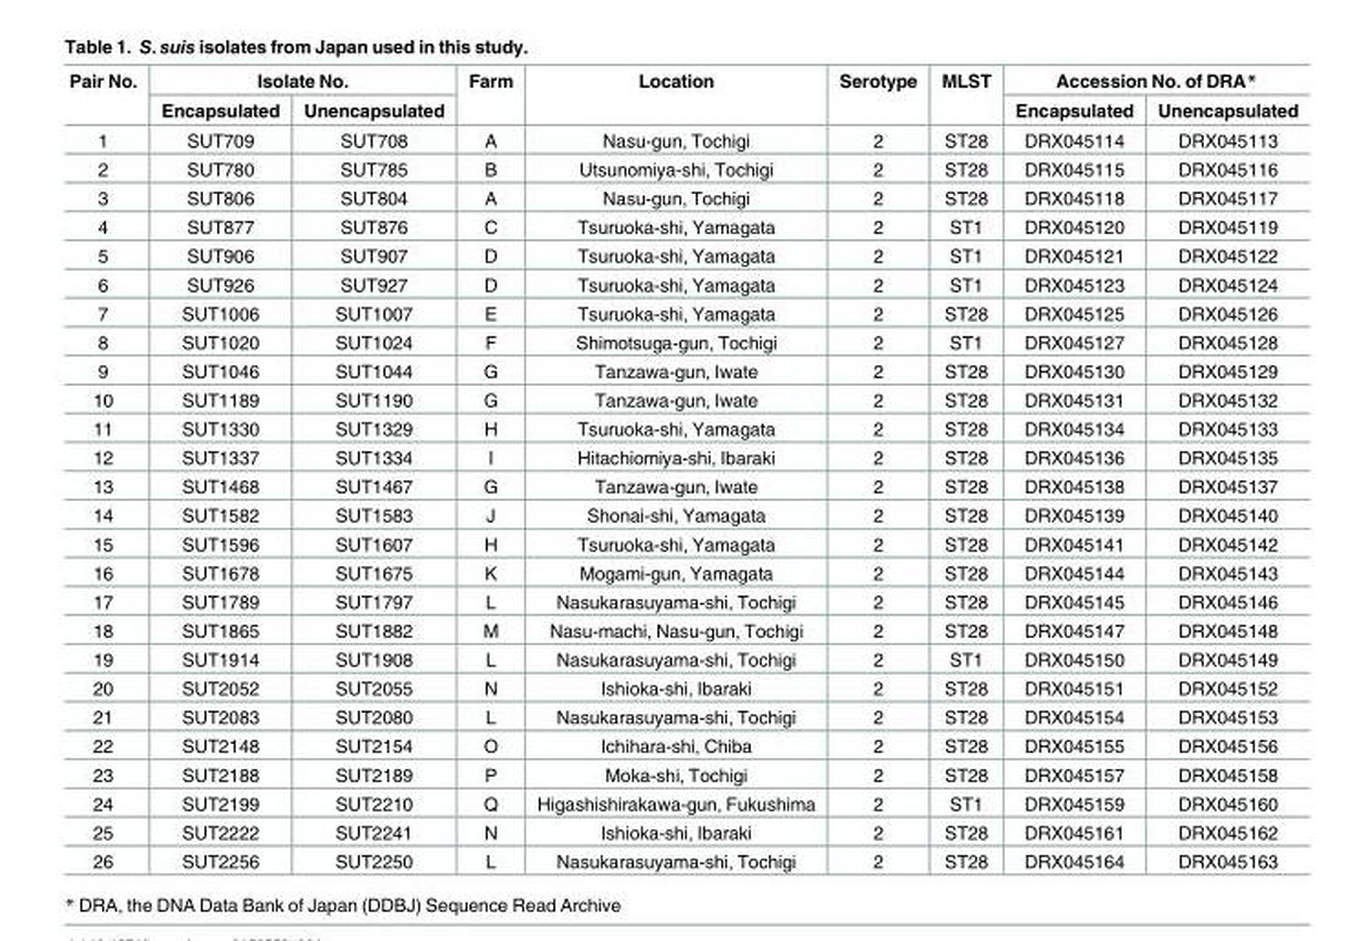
<table><thead><tr><td rowspan="2">Pair No.</td><td colspan="2">Isolate No.</td><td rowspan="2">Farm</td><td rowspan="2">Location</td><td rowspan="2">Serotype</td><td rowspan="2">MLST</td><td colspan="2">Accession No. of DRA*</td></tr><tr><td>Encapsulated</td><td>Unencapsulated</td><td>Encapsulated</td><td>Unencapsulated</td></tr></thead><tbody><tr><td>1</td><td>SUT709</td><td>SUT708</td><td>A</td><td>Nasu-gun, Tochigi</td><td>2</td><td>ST28</td><td>DRX045114</td><td>DRX045113</td></tr><tr><td>2</td><td>SUT780</td><td>SUT785</td><td>B</td><td>Utsunomiya-shi, Tochigi</td><td>2</td><td>ST28</td><td>DRX045115</td><td>DRX045116</td></tr><tr><td>3</td><td>SUT806</td><td>SUT804</td><td>A</td><td>Nasu-gun, Tochigi</td><td>2</td><td>ST28</td><td>DRX045118</td><td>DRX045117</td></tr><tr><td>4</td><td>SUT877</td><td>SUT876</td><td>C</td><td>Tsuruoka-shi, Yamagata</td><td>2</td><td>ST1</td><td>DRX045120</td><td>DRX045119</td></tr><tr><td>5</td><td>SUT906</td><td>SUT907</td><td>D</td><td>Tsuruoka-shi, Yamagata</td><td>2</td><td>ST1</td><td>DRX045121</td><td>DRX045122</td></tr><tr><td>6</td><td>SUT926</td><td>SUT927</td><td>D</td><td>Tsuruoka-shi, Yamagata</td><td>2</td><td>ST1</td><td>DRX045123</td><td>DRX045124</td></tr><tr><td>7</td><td>SUT1006</td><td>SUT1007</td><td>E</td><td>Tsuruoka-shi, Yamagata</td><td>2</td><td>ST28</td><td>DRX045125</td><td>DRX045126</td></tr><tr><td>8</td><td>SUT1020</td><td>SUT1024</td><td>F</td><td>Shimotsuga-gun, Tochigi</td><td>2</td><td>ST1</td><td>DRX045127</td><td>DRX045128</td></tr><tr><td>9</td><td>SUT1046</td><td>SUT1044</td><td>G</td><td>Tanzawa-gun, Iwate</td><td>2</td><td>ST28</td><td>DRX045130</td><td>DRX045129</td></tr><tr><td>10</td><td>SUT1189</td><td>SUT1190</td><td>G</td><td>Tanzawa-gun, Iwate</td><td>2</td><td>ST28</td><td>DRX045131</td><td>DRX045132</td></tr><tr><td>11</td><td>SUT1330</td><td>SUT1329</td><td>H</td><td>Tsuruoka-shi, Yamagata</td><td>2</td><td>ST28</td><td>DRX045134</td><td>DRX045133</td></tr><tr><td>12</td><td>SUT1337</td><td>SUT1334</td><td>I</td><td>Hitachiomiya-shi, Ibaraki</td><td>2</td><td>ST28</td><td>DRX045136</td><td>DRX045135</td></tr><tr><td>13</td><td>SUT1468</td><td>SUT1467</td><td>G</td><td>Tanzawa-gun, Iwate</td><td>2</td><td>ST28</td><td>DRX045138</td><td>DRX045137</td></tr><tr><td>14</td><td>SUT1582</td><td>SUT1583</td><td>J</td><td>Shonai-shi, Yamagata</td><td>2</td><td>ST28</td><td>DRX045139</td><td>DRX045140</td></tr><tr><td>15</td><td>SUT1596</td><td>SUT1607</td><td>H</td><td>Tsuruoka-shi, Yamagata</td><td>2</td><td>ST28</td><td>DRX045141</td><td>DRX045142</td></tr><tr><td>16</td><td>SUT1678</td><td>SUT1675</td><td>K</td><td>Mogami-gun, Yamagata</td><td>2</td><td>ST28</td><td>DRX045144</td><td>DRX045143</td></tr><tr><td>17</td><td>SUT1789</td><td>SUT1797</td><td>L</td><td>Nasukarasuyama-shi, Tochigi</td><td>2</td><td>ST28</td><td>DRX045145</td><td>DRX045146</td></tr><tr><td>18</td><td>SUT1865</td><td>SUT1882</td><td>M</td><td>Nasu-machi, Nasu-gun, Tochigi</td><td>2</td><td>ST28</td><td>DRX045147</td><td>DRX045148</td></tr><tr><td>19</td><td>SUT1914</td><td>SUT1908</td><td>L</td><td>Nasukarasuyama-shi, Tochigi</td><td>2</td><td>ST1</td><td>DRX045150</td><td>DRX045149</td></tr><tr><td>20</td><td>SUT2052</td><td>SUT2055</td><td>N</td><td>Ishioka-shi, Ibaraki</td><td>2</td><td>ST28</td><td>DRX045151</td><td>DRX045152</td></tr><tr><td>21</td><td>SUT2083</td><td>SUT2080</td><td>L</td><td>Nasukarasuyama-shi, Tochigi</td><td>2</td><td>ST28</td><td>DRX045154</td><td>DRX045153</td></tr><tr><td>22</td><td>SUT2148</td><td>SUT2154</td><td>O</td><td>Ichihara-shi, Chiba</td><td>2</td><td>ST28</td><td>DRX045155</td><td>DRX045156</td></tr><tr><td>23</td><td>SUT2188</td><td>SUT2189</td><td>P</td><td>Moka-shi, Tochigi</td><td>2</td><td>ST28</td><td>DRX045157</td><td>DRX045158</td></tr><tr><td>24</td><td>SUT2199</td><td>SUT2210</td><td>Q</td><td>Higashishirakawa-gun, Fukushima</td><td>2</td><td>ST1</td><td>DRX045159</td><td>DRX045160</td></tr><tr><td>25</td><td>SUT2222</td><td>SUT2241</td><td>N</td><td>Ishioka-shi, Ibaraki</td><td>2</td><td>ST28</td><td>DRX045161</td><td>DRX045162</td></tr><tr><td>26</td><td>SUT2256</td><td>SUT2250</td><td>L</td><td>Nasukarasuyama-shi, Tochigi</td><td>2</td><td>ST28</td><td>DRX045164</td><td>DRX045163</td></tr></tbody></table>